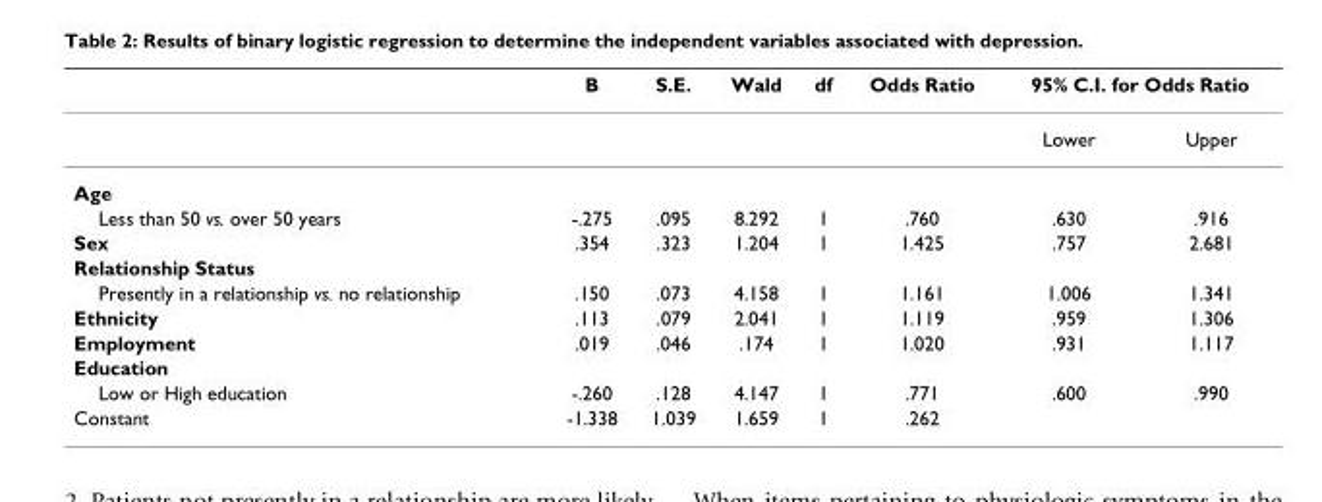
<table><thead><tr><td rowspan="2"></td><td rowspan="2">B</td><td rowspan="2">S.E.</td><td rowspan="2">Wald</td><td rowspan="2">df</td><td rowspan="2">Odds Ratio</td><td colspan="2">95% C.I. for Odds Ratio</td></tr><tr><td>Lower</td><td>Upper</td></tr></thead><tbody><tr><td colspan="8">Age</td></tr><tr><td>Less than 50 vs. over 50 years</td><td>-.275</td><td>.095</td><td>8.292</td><td>1</td><td>.760</td><td>.630</td><td>.916</td></tr><tr><td>Sex</td><td>.354</td><td>.323</td><td>1.204</td><td>1</td><td>1.425</td><td>.757</td><td>2.681</td></tr><tr><td colspan="8">Relationship Status</td></tr><tr><td>Presently in a relationship vs. no relationship</td><td>.150</td><td>.073</td><td>4.158</td><td>1</td><td>1.161</td><td>1.006</td><td>1.341</td></tr><tr><td>Ethnicity</td><td>.113</td><td>.079</td><td>2.041</td><td>1</td><td>1.119</td><td>.959</td><td>1.306</td></tr><tr><td>Employment</td><td>.019</td><td>.046</td><td>.174</td><td>1</td><td>1.020</td><td>.931</td><td>1.117</td></tr><tr><td colspan="8">Education</td></tr><tr><td>Low or High education</td><td>-.260</td><td>.128</td><td>4.147</td><td>1</td><td>.771</td><td>.600</td><td>.990</td></tr><tr><td>Constant</td><td>-1.338</td><td>1.039</td><td>1.659</td><td>1</td><td>.262</td><td></td><td></td></tr></tbody></table>